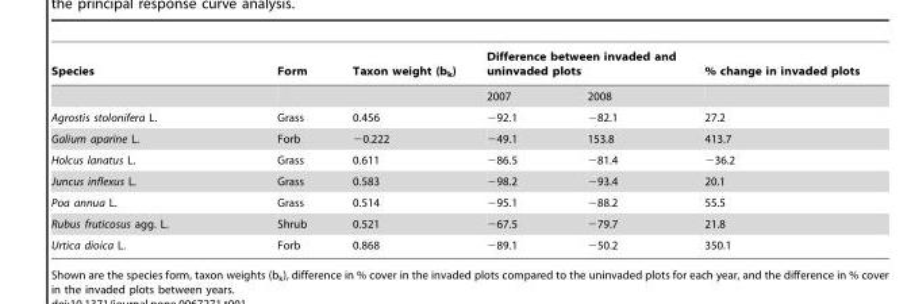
<table><thead><tr><td rowspan="2">Species</td><td rowspan="2">Form</td><td rowspan="2">Taxon weight (b<sub>k</sub>)</td><td colspan="2">Difference between invaded and uninvaded plots</td><td rowspan="2">% change in invaded plots</td></tr><tr><td>2007</td><td>2008</td></tr></thead><tbody><tr><td>Agrostis stolonifera L.</td><td>Grass</td><td>0.456</td><td>−92.1</td><td>−82.1</td><td>27.2</td></tr><tr><td>Galium aparine L.</td><td>Forb</td><td>−0.222</td><td>−49.1</td><td>153.8</td><td>413.7</td></tr><tr><td>Holcus lanatus L.</td><td>Grass</td><td>0.611</td><td>−86.5</td><td>−81.4</td><td>−36.2</td></tr><tr><td>Juncus inflexus L.</td><td>Grass</td><td>0.583</td><td>−98.2</td><td>−93.4</td><td>20.1</td></tr><tr><td>Poa annua L.</td><td>Grass</td><td>0.514</td><td>−95.1</td><td>−88.2</td><td>55.5</td></tr><tr><td>Rubus fruticosus agg. L.</td><td>Shrub</td><td>0.521</td><td>−67.5</td><td>−79.7</td><td>21.8</td></tr><tr><td>Urtica dioica L.</td><td>Forb</td><td>0.868</td><td>−89.1</td><td>−50.2</td><td>350.1</td></tr></tbody></table>